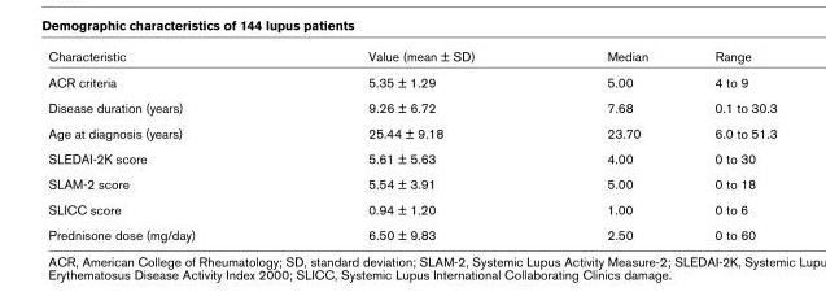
<table><thead><tr><td>Characteristic</td><td>Value (mean ± SD)</td><td>Median</td><td>Range</td></tr></thead><tbody><tr><td>ACR criteria</td><td>5.35 ± 1.29</td><td>5.00</td><td>4 to 9</td></tr><tr><td>Disease duration (years)</td><td>9.26 ± 6.72</td><td>7.68</td><td>0.1 to 30.3</td></tr><tr><td>Age at diagnosis (years)</td><td>25.44 ± 9.18</td><td>23.70</td><td>6.0 to 51.3</td></tr><tr><td>SLEDAI-2K score</td><td>5.61 ± 5.63</td><td>4.00</td><td>0 to 30</td></tr><tr><td>SLAM-2 score</td><td>5.54 ± 3.91</td><td>5.00</td><td>0 to 18</td></tr><tr><td>SLICC score</td><td>0.94 ± 1.20</td><td>1.00</td><td>0 to 6</td></tr><tr><td>Prednisone dose (mg/day)</td><td>6.50 ± 9.83</td><td>2.50</td><td>0 to 60</td></tr></tbody></table>